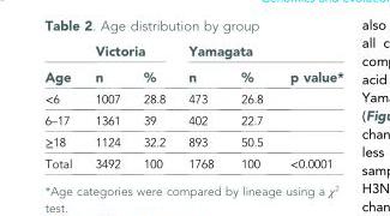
<table><thead><tr><td rowspan="2">Age</td><td colspan="2">Victoria</td><td colspan="2">Yamagata</td><td rowspan="2">p value*</td></tr><tr><td>n</td><td>%</td><td>n</td><td>%</td></tr></thead><tbody><tr><td>&lt;6</td><td>1007</td><td>28.8</td><td>473</td><td>26.8</td><td></td></tr><tr><td>6–17</td><td>1361</td><td>39</td><td>402</td><td>22.7</td><td></td></tr><tr><td>≥18</td><td>1124</td><td>32.2</td><td>893</td><td>50.5</td><td></td></tr><tr><td>Total</td><td>3492</td><td>100</td><td>1768</td><td>100</td><td>&lt;0.0001</td></tr></tbody></table>